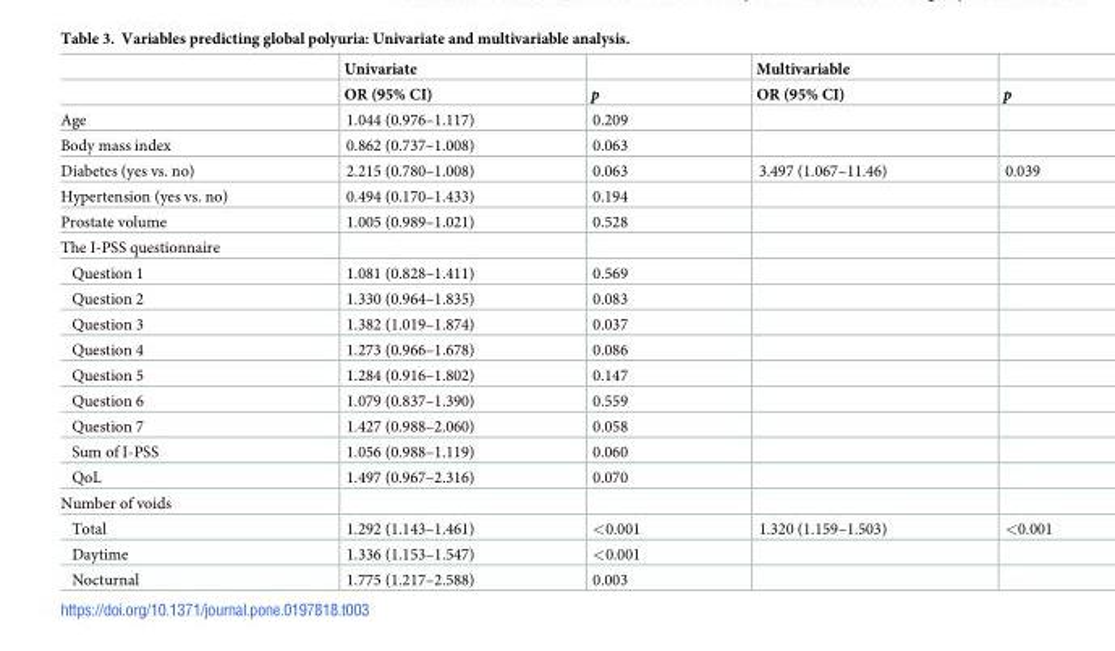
<table><thead><tr><td rowspan="2"></td><td rowspan="2">Univariate OR (95% CI)</td><td rowspan="2">p</td><td rowspan="2">Multivariable OR (95% CI)</td><td rowspan="2">p</td></tr><tr></tr></thead><tbody><tr><td>Age</td><td>1.044 (0.976–1.117)</td><td>0.209</td><td></td><td></td></tr><tr><td>Body mass index</td><td>0.862 (0.737–1.008)</td><td>0.063</td><td></td><td></td></tr><tr><td>Diabetes (yes vs. no)</td><td>2.215 (0.780–1.008)</td><td>0.063</td><td>3.497 (1.067–11.46)</td><td>0.039</td></tr><tr><td>Hypertension (yes vs. no)</td><td>0.494 (0.170–1.433)</td><td>0.194</td><td></td><td></td></tr><tr><td>Prostate volume</td><td>1.005 (0.989–1.021)</td><td>0.528</td><td></td><td></td></tr><tr><td colspan="5">The I-PSS questionnaire</td></tr><tr><td>Question 1</td><td>1.081 (0.828–1.411)</td><td>0.569</td><td></td><td></td></tr><tr><td>Question 2</td><td>1.330 (0.964–1.835)</td><td>0.083</td><td></td><td></td></tr><tr><td>Question 3</td><td>1.382 (1.019–1.874)</td><td>0.037</td><td></td><td></td></tr><tr><td>Question 4</td><td>1.273 (0.966–1.678)</td><td>0.086</td><td></td><td></td></tr><tr><td>Question 5</td><td>1.284 (0.916–1.802)</td><td>0.147</td><td></td><td></td></tr><tr><td>Question 6</td><td>1.079 (0.837–1.390)</td><td>0.559</td><td></td><td></td></tr><tr><td>Question 7</td><td>1.427 (0.988–2.060)</td><td>0.058</td><td></td><td></td></tr><tr><td>Sum of I-PSS</td><td>1.056 (0.988–1.119)</td><td>0.060</td><td></td><td></td></tr><tr><td>QoL</td><td>1.497 (0.967–2.316)</td><td>0.070</td><td></td><td></td></tr><tr><td colspan="5">Number of voids</td></tr><tr><td>Total</td><td>1.292 (1.143–1.461)</td><td>&lt;0.001</td><td>1.320 (1.159–1.503)</td><td>&lt;0.001</td></tr><tr><td>Daytime</td><td>1.336 (1.153–1.547)</td><td>&lt;0.001</td><td></td><td></td></tr><tr><td>Nocturnal</td><td>1.775 (1.217–2.588)</td><td>0.003</td><td></td><td></td></tr></tbody></table>